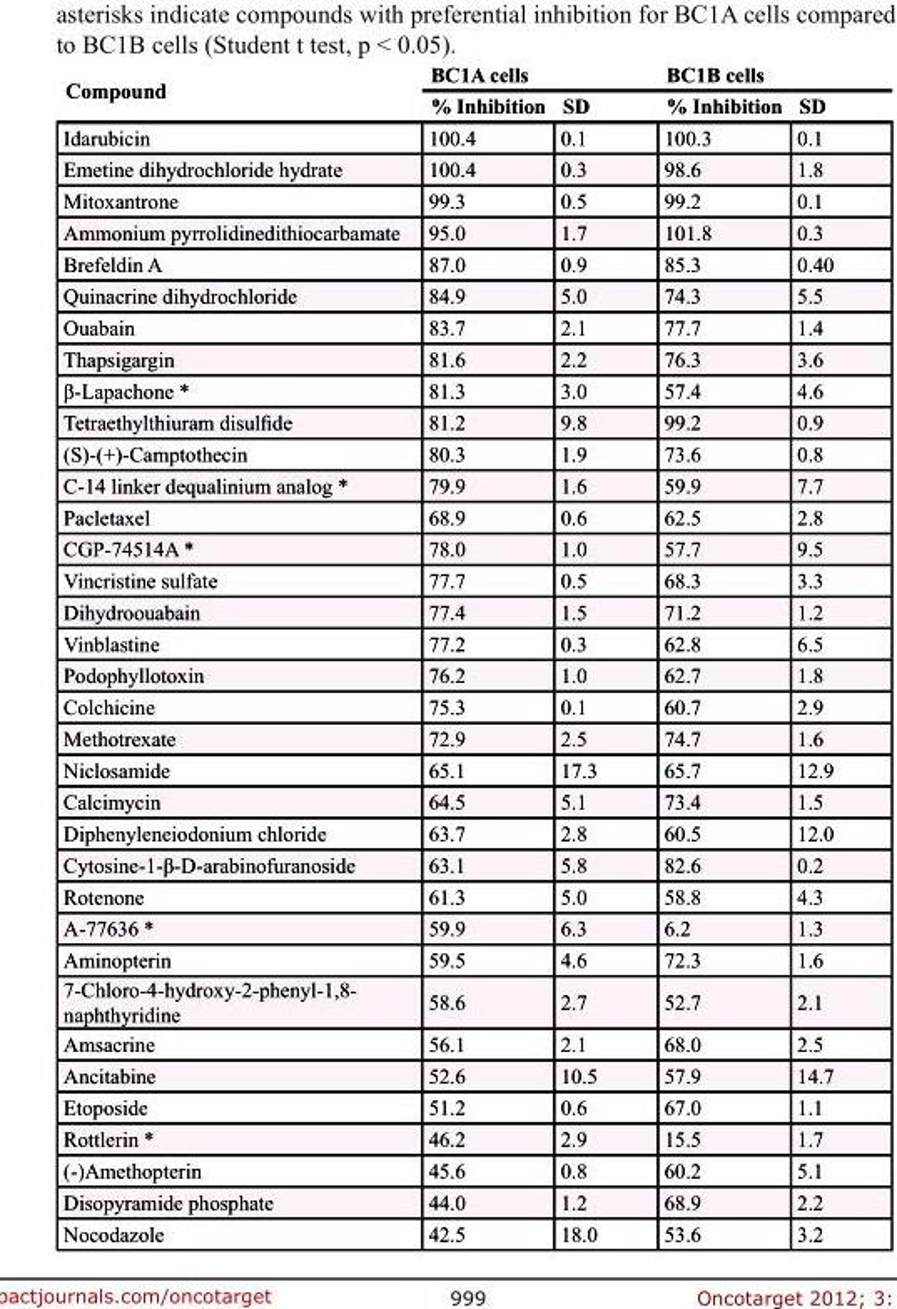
<table><thead><tr><td rowspan="2">compound</td><td colspan="2">bc1A cells</td><td colspan="2">bc1b cells</td></tr><tr><td>% Inhibition</td><td>sD</td><td>% Inhibition</td><td>sD</td></tr></thead><tbody><tr><td>Idarubicin</td><td>100.4</td><td>0.1</td><td>100.3</td><td>0.1</td></tr><tr><td>Emetine dihydrochloride hydrate</td><td>100.4</td><td>0.3</td><td>98.6</td><td>1.8</td></tr><tr><td>Mitoxantrone</td><td>99.3</td><td>0.5</td><td>99.2</td><td>0.1</td></tr><tr><td>Ammonium pyrrolidinedithiocarbamate</td><td>95.0</td><td>1.7</td><td>101.8</td><td>0.3</td></tr><tr><td>Brefeldin A</td><td>87.0</td><td>0.9</td><td>85.3</td><td>0.40</td></tr><tr><td>Quinacrine dihydrochloride</td><td>84.9</td><td>5.0</td><td>74.3</td><td>5.5</td></tr><tr><td>Ouabain</td><td>83.7</td><td>2.1</td><td>77.7</td><td>1.4</td></tr><tr><td>Thapsigargin</td><td>81.6</td><td>2.2</td><td>76.3</td><td>3.6</td></tr><tr><td>β-Lapachone *</td><td>81.3</td><td>3.0</td><td>57.4</td><td>4.6</td></tr><tr><td>Tetraethylthiuram disulfide</td><td>81.2</td><td>9.8</td><td>99.2</td><td>0.9</td></tr><tr><td>(S)-(+)-Camptothecin</td><td>80.3</td><td>1.9</td><td>73.6</td><td>0.8</td></tr><tr><td>C-14 linker dequalinium analog *</td><td>79.9</td><td>1.6</td><td>59.9</td><td>7.7</td></tr><tr><td>Pacletaxel</td><td>68.9</td><td>0.6</td><td>62.5</td><td>2.8</td></tr><tr><td>CGP-74514A *</td><td>78.0</td><td>1.0</td><td>57.7</td><td>9.5</td></tr><tr><td>Vincristine sulfate</td><td>77.7</td><td>0.5</td><td>68.3</td><td>3.3</td></tr><tr><td>Dihydroouabain</td><td>77.4</td><td>1.5</td><td>71.2</td><td>1.2</td></tr><tr><td>Vinblastine</td><td>77.2</td><td>0.3</td><td>62.8</td><td>6.5</td></tr><tr><td>Podophyllotoxin</td><td>76.2</td><td>1.0</td><td>62.7</td><td>1.8</td></tr><tr><td>Colchicine</td><td>75.3</td><td>0.1</td><td>60.7</td><td>2.9</td></tr><tr><td>Methotrexate</td><td>72.9</td><td>2.5</td><td>74.7</td><td>1.6</td></tr><tr><td>Niclosamide</td><td>65.1</td><td>17.3</td><td>65.7</td><td>12.9</td></tr><tr><td>Calcimycin</td><td>64.5</td><td>5.1</td><td>73.4</td><td>1.5</td></tr><tr><td>Diphenyleneiodonium chloride</td><td>63.7</td><td>2.8</td><td>60.5</td><td>12.0</td></tr><tr><td>Cytosine-1-β-D-arabinofuranoside</td><td>63.1</td><td>5.8</td><td>82.6</td><td>0.2</td></tr><tr><td>Rotenone</td><td>61.3</td><td>5.0</td><td>58.8</td><td>4.3</td></tr><tr><td>A-77636 *</td><td>59.9</td><td>6.3</td><td>6.2</td><td>1.3</td></tr><tr><td>Aminopterin</td><td>59.5</td><td>4.6</td><td>72.3</td><td>1.6</td></tr><tr><td>7-Chloro-4-hydroxy-2-phenyl-1,8- naphthyridine</td><td>58.6</td><td>2.7</td><td>52.7</td><td>2.1</td></tr><tr><td>Amsacrine</td><td>56.1</td><td>2.1</td><td>68.0</td><td>2.5</td></tr><tr><td>Ancitabine</td><td>52.6</td><td>10.5</td><td>57.9</td><td>14.7</td></tr><tr><td>Etoposide</td><td>51.2</td><td>0.6</td><td>67.0</td><td>1.1</td></tr><tr><td>Rottlerin *</td><td>46.2</td><td>2.9</td><td>15.5</td><td>1.7</td></tr><tr><td>(-)Amethopterin</td><td>45.6</td><td>0.8</td><td>60.2</td><td>5.1</td></tr><tr><td>Disopyramide phosphate</td><td>44.0</td><td>1.2</td><td>68.9</td><td>2.2</td></tr><tr><td>Nocodazole</td><td>42.5</td><td>18.0</td><td>53.6</td><td>3.2</td></tr></tbody></table>